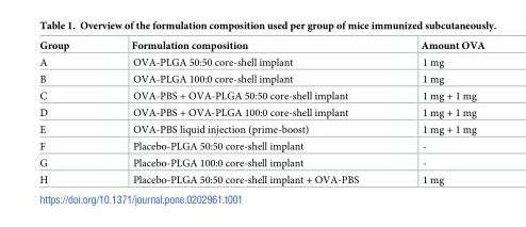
<table><thead><tr><td>Group</td><td>Formulation composition</td><td>Amount OVA</td></tr></thead><tbody><tr><td>A</td><td>OVA-PLGA 50:50 core-shell implant</td><td>1 mg</td></tr><tr><td>B</td><td>OVA-PLGA 100:0 core-shell implant</td><td>1 mg</td></tr><tr><td>C</td><td>OVA-PBS + OVA-PLGA 50:50 core-shell implant</td><td>1 mg + 1 mg</td></tr><tr><td>D</td><td>OVA-PBS + OVA-PLGA 100:0 core-shell implant</td><td>1 mg + 1 mg</td></tr><tr><td>E</td><td>OVA-PBS liquid injection (prime-boost)</td><td>1 mg + 1 mg</td></tr><tr><td>F</td><td>Placebo-PLGA 50:50 core-shell implant</td><td>-</td></tr><tr><td>G</td><td>Placebo-PLGA 100:0 core-shell implant</td><td>-</td></tr><tr><td>H</td><td>Placebo-PLGA 50:50 core-shell implant + OVA-PBS</td><td>1 mg</td></tr></tbody></table>